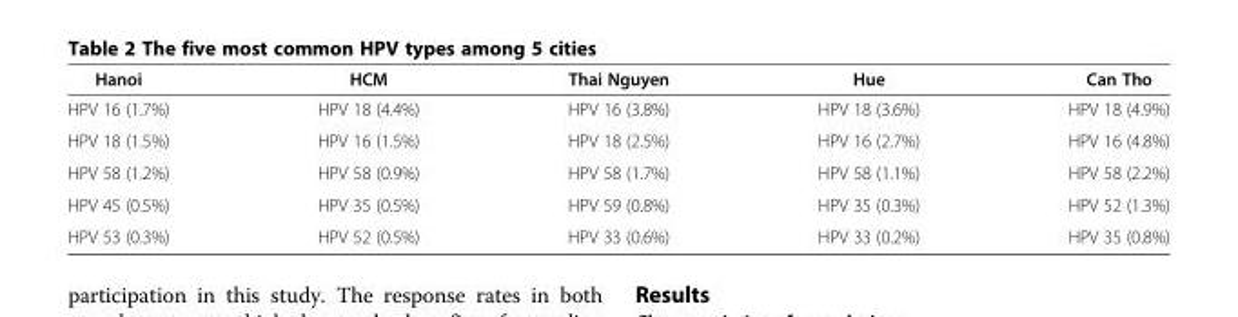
<table><thead><tr><td>Hanoi</td><td>HCM</td><td>Thai Nguyen</td><td>Hue</td><td>Can Tho</td></tr></thead><tbody><tr><td>HPV 16 (1.7%)</td><td>HPV 18 (4.4%)</td><td>HPV 16 (3.8%)</td><td>HPV 18 (3.6%)</td><td>HPV 18 (4.9%)</td></tr><tr><td>HPV 18 (1.5%)</td><td>HPV 16 (1.5%)</td><td>HPV 18 (2.5%)</td><td>HPV 16 (2.7%)</td><td>HPV 16 (4.8%)</td></tr><tr><td>HPV 58 (1.2%)</td><td>HPV 58 (0.9%)</td><td>HPV 58 (1.7%)</td><td>HPV 58 (1.1%)</td><td>HPV 58 (2.2%)</td></tr><tr><td>HPV 45 (0.5%)</td><td>HPV 35 (0.5%)</td><td>HPV 59 (0.8%)</td><td>HPV 35 (0.3%)</td><td>HPV 52 (1.3%)</td></tr><tr><td>HPV 53 (0.3%)</td><td>HPV 52 (0.5%)</td><td>HPV 33 (0.6%)</td><td>HPV 33 (0.2%)</td><td>HPV 35 (0.8%)</td></tr></tbody></table>